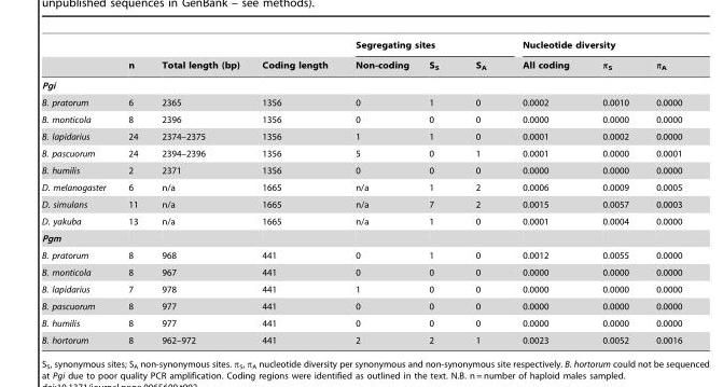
<table><thead><tr><td rowspan="2"></td><td rowspan="2">n</td><td rowspan="2">Total length (bp)</td><td rowspan="2">Coding length</td><td colspan="3">Segregating sites</td><td colspan="3">Nucleotide diversity</td></tr><tr><td>Non-coding</td><td>S<sub>S</sub></td><td>S<sub>A</sub></td><td>All coding</td><td>π<sub>S</sub></td><td>π<sub>A</sub></td></tr></thead><tbody><tr><td colspan="10">Pgi</td></tr><tr><td>B. pratorum</td><td>6</td><td>2365</td><td>1356</td><td>0</td><td>1</td><td>0</td><td>0.0002</td><td>0.0010</td><td>0.0000</td></tr><tr><td>B. monticola</td><td>8</td><td>2396</td><td>1356</td><td>0</td><td>0</td><td>0</td><td>0.0000</td><td>0.0000</td><td>0.0000</td></tr><tr><td>B. lapidarius</td><td>24</td><td>2374–2375</td><td>1356</td><td>1</td><td>1</td><td>0</td><td>0.0001</td><td>0.0002</td><td>0.0000</td></tr><tr><td>B. pascuorum</td><td>24</td><td>2394–2396</td><td>1356</td><td>5</td><td>0</td><td>1</td><td>0.0001</td><td>0.0000</td><td>0.0001</td></tr><tr><td>B. humilis</td><td>2</td><td>2371</td><td>1356</td><td>0</td><td>0</td><td>0</td><td>0.0000</td><td>0.0000</td><td>0.0000</td></tr><tr><td>D. melanogaster</td><td>6</td><td>n/a</td><td>1665</td><td>n/a</td><td>1</td><td>2</td><td>0.0006</td><td>0.0009</td><td>0.0005</td></tr><tr><td>D. simulans</td><td>11</td><td>n/a</td><td>1665</td><td>n/a</td><td>7</td><td>2</td><td>0.0015</td><td>0.0057</td><td>0.0003</td></tr><tr><td>D. yakuba</td><td>13</td><td>n/a</td><td>1665</td><td>n/a</td><td>1</td><td>0</td><td>0.0001</td><td>0.0004</td><td>0.0000</td></tr><tr><td colspan="10">Pgm</td></tr><tr><td>B. pratorum</td><td>8</td><td>968</td><td>441</td><td>0</td><td>1</td><td>0</td><td>0.0012</td><td>0.0055</td><td>0.0000</td></tr><tr><td>B. monticola</td><td>8</td><td>967</td><td>441</td><td>0</td><td>0</td><td>0</td><td>0.0000</td><td>0.0000</td><td>0.0000</td></tr><tr><td>B. lapidarius</td><td>7</td><td>978</td><td>441</td><td>1</td><td>0</td><td>0</td><td>0.0000</td><td>0.0000</td><td>0.0000</td></tr><tr><td>B. pascuorum</td><td>8</td><td>977</td><td>441</td><td>0</td><td>0</td><td>0</td><td>0.0000</td><td>0.0000</td><td>0.0000</td></tr><tr><td>B. humilis</td><td>8</td><td>977</td><td>441</td><td>0</td><td>0</td><td>0</td><td>0.0000</td><td>0.0000</td><td>0.0000</td></tr><tr><td>B. hortorum</td><td>8</td><td>962–972</td><td>441</td><td>2</td><td>2</td><td>1</td><td>0.0023</td><td>0.0052</td><td>0.0016</td></tr></tbody></table>